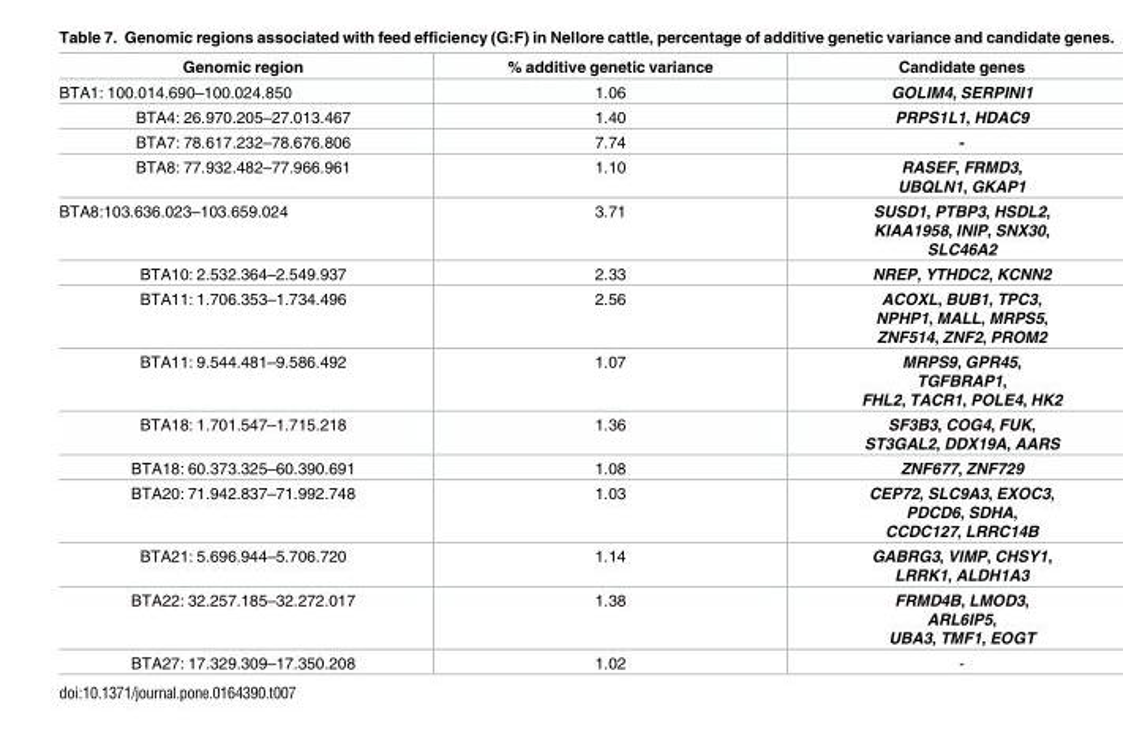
<table><thead><tr><td>Genomic region</td><td>% additive genetic variance</td><td>Candidate genes</td></tr></thead><tbody><tr><td>BTA1: 100.014.690–100.024.850</td><td>1.06</td><td>GOLIM4, SERPINI1</td></tr><tr><td>BTA4: 26.970.205–27.013.467</td><td>1.40</td><td>PRPS1L1, HDAC9</td></tr><tr><td>BTA7: 78.617.232–78.676.806</td><td>7.74</td><td>-</td></tr><tr><td>BTA8: 77.932.482–77.966.961</td><td>1.10</td><td>RASEF, FRMD3, UBQLN1, GKAP1</td></tr><tr><td>BTA8:103.636.023–103.659.024</td><td>3.71</td><td>SUSD1, PTBP3, HSDL2, KIAA1958, INIP, SNX30, SLC46A2</td></tr><tr><td>BTA10: 2.532.364–2.549.937</td><td>2.33</td><td>NREP, YTHDC2, KCNN2</td></tr><tr><td>BTA11: 1.706.353–1.734.496</td><td>2.56</td><td>ACOXL, BUB1, TPC3, NPHP1, MALL, MRPS5, ZNF514, ZNF2, PROM2</td></tr><tr><td>BTA11: 9.544.481–9.586.492</td><td>1.07</td><td>MRPS9, GPR45, TGFBRAP1, FHL2, TACR1, POLE4, HK2</td></tr><tr><td>BTA18: 1.701.547–1.715.218</td><td>1.36</td><td>SF3B3, COG4, FUK, ST3GAL2, DDX19A, AARS</td></tr><tr><td>BTA18: 60.373.325–60.390.691</td><td>1.08</td><td>ZNF677, ZNF729</td></tr><tr><td>BTA20: 71.942.837–71.992.748</td><td>1.03</td><td>CEP72, SLC9A3, EXOC3, PDCD6, SDHA, CCDC127, LRRC14B</td></tr><tr><td>BTA21: 5.696.944–5.706.720</td><td>1.14</td><td>GABRG3, VIMP, CHSY1, LRRK1, ALDH1A3</td></tr><tr><td>BTA22: 32.257.185–32.272.017</td><td>1.38</td><td>FRMD4B, LMOD3, ARL6IP5, UBA3, TMF1, EOGT</td></tr><tr><td>BTA27: 17.329.309–17.350.208</td><td>1.02</td><td>-</td></tr></tbody></table>